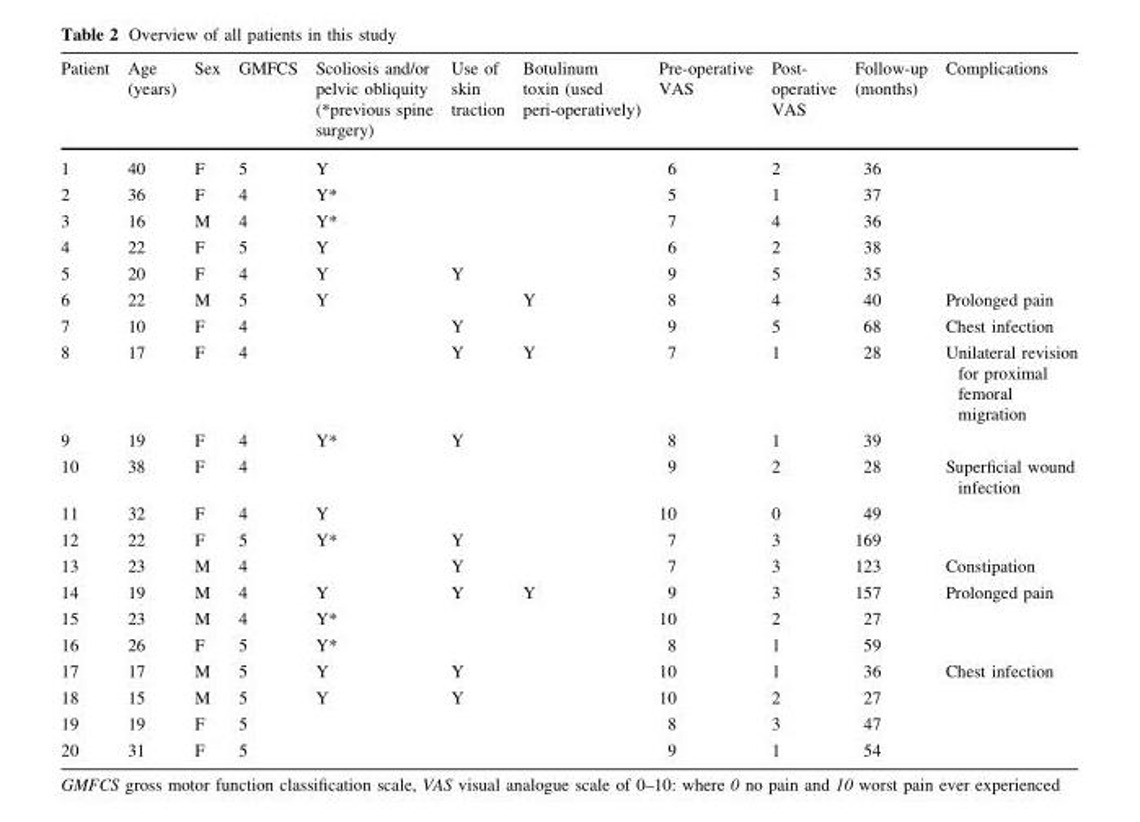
<table><thead><tr><td>Patient</td><td>Age (years)</td><td>Sex</td><td>GMFCS</td><td>Scoliosis and/or pelvic obliquity (*previous spine surgery)</td><td>Use of skin traction</td><td>Botulinum toxin (used peri-operatively)</td><td>Pre-operative VAS</td><td>Post- operative VAS</td><td>Follow-up (months)</td><td>Complications</td></tr></thead><tbody><tr><td>1</td><td>40</td><td>F</td><td>5</td><td>Y</td><td></td><td></td><td>6</td><td>2</td><td>36</td><td></td></tr><tr><td>2</td><td>36</td><td>F</td><td>4</td><td>Y*</td><td></td><td></td><td>5</td><td>1</td><td>37</td><td></td></tr><tr><td>3</td><td>16</td><td>M</td><td>4</td><td>Y*</td><td></td><td></td><td>7</td><td>4</td><td>36</td><td></td></tr><tr><td>4</td><td>22</td><td>F</td><td>5</td><td>Y</td><td></td><td></td><td>6</td><td>2</td><td>38</td><td></td></tr><tr><td>5</td><td>20</td><td>F</td><td>4</td><td>Y</td><td>Y</td><td></td><td>9</td><td>5</td><td>35</td><td></td></tr><tr><td>6</td><td>22</td><td>M</td><td>5</td><td>Y</td><td></td><td>Y</td><td>8</td><td>4</td><td>40</td><td>Prolonged pain</td></tr><tr><td>7</td><td>10</td><td>F</td><td>4</td><td></td><td>Y</td><td></td><td>9</td><td>5</td><td>68</td><td>Chest infection</td></tr><tr><td>8</td><td>17</td><td>F</td><td>4</td><td></td><td>Y</td><td>Y</td><td>7</td><td>1</td><td>28</td><td>Unilateral revision for proximal femoral migration</td></tr><tr><td>9</td><td>19</td><td>F</td><td>4</td><td>Y*</td><td>Y</td><td></td><td>8</td><td>1</td><td>39</td><td></td></tr><tr><td>10</td><td>38</td><td>F</td><td>4</td><td></td><td></td><td></td><td>9</td><td>2</td><td>28</td><td>Superficial wound infection</td></tr><tr><td>11</td><td>32</td><td>F</td><td>4</td><td>Y</td><td></td><td></td><td>10</td><td>0</td><td>49</td><td></td></tr><tr><td>12</td><td>22</td><td>F</td><td>5</td><td>Y*</td><td>Y</td><td></td><td>7</td><td>3</td><td>169</td><td></td></tr><tr><td>13</td><td>23</td><td>M</td><td>4</td><td></td><td>Y</td><td></td><td>7</td><td>3</td><td>123</td><td>Constipation</td></tr><tr><td>14</td><td>19</td><td>M</td><td>4</td><td>Y</td><td>Y</td><td>Y</td><td>9</td><td>3</td><td>157</td><td>Prolonged pain</td></tr><tr><td>15</td><td>23</td><td>M</td><td>4</td><td>Y*</td><td></td><td></td><td>10</td><td>2</td><td>27</td><td></td></tr><tr><td>16</td><td>26</td><td>F</td><td>5</td><td>Y*</td><td></td><td></td><td>8</td><td>1</td><td>59</td><td></td></tr><tr><td>17</td><td>17</td><td>M</td><td>5</td><td>Y</td><td>Y</td><td></td><td>10</td><td>1</td><td>36</td><td>Chest infection</td></tr><tr><td>18</td><td>15</td><td>M</td><td>5</td><td>Y</td><td>Y</td><td></td><td>10</td><td>2</td><td>27</td><td></td></tr><tr><td>19</td><td>19</td><td>F</td><td>5</td><td></td><td></td><td></td><td>8</td><td>3</td><td>47</td><td></td></tr><tr><td>20</td><td>31</td><td>F</td><td>5</td><td></td><td></td><td></td><td>9</td><td>1</td><td>54</td><td></td></tr></tbody></table>